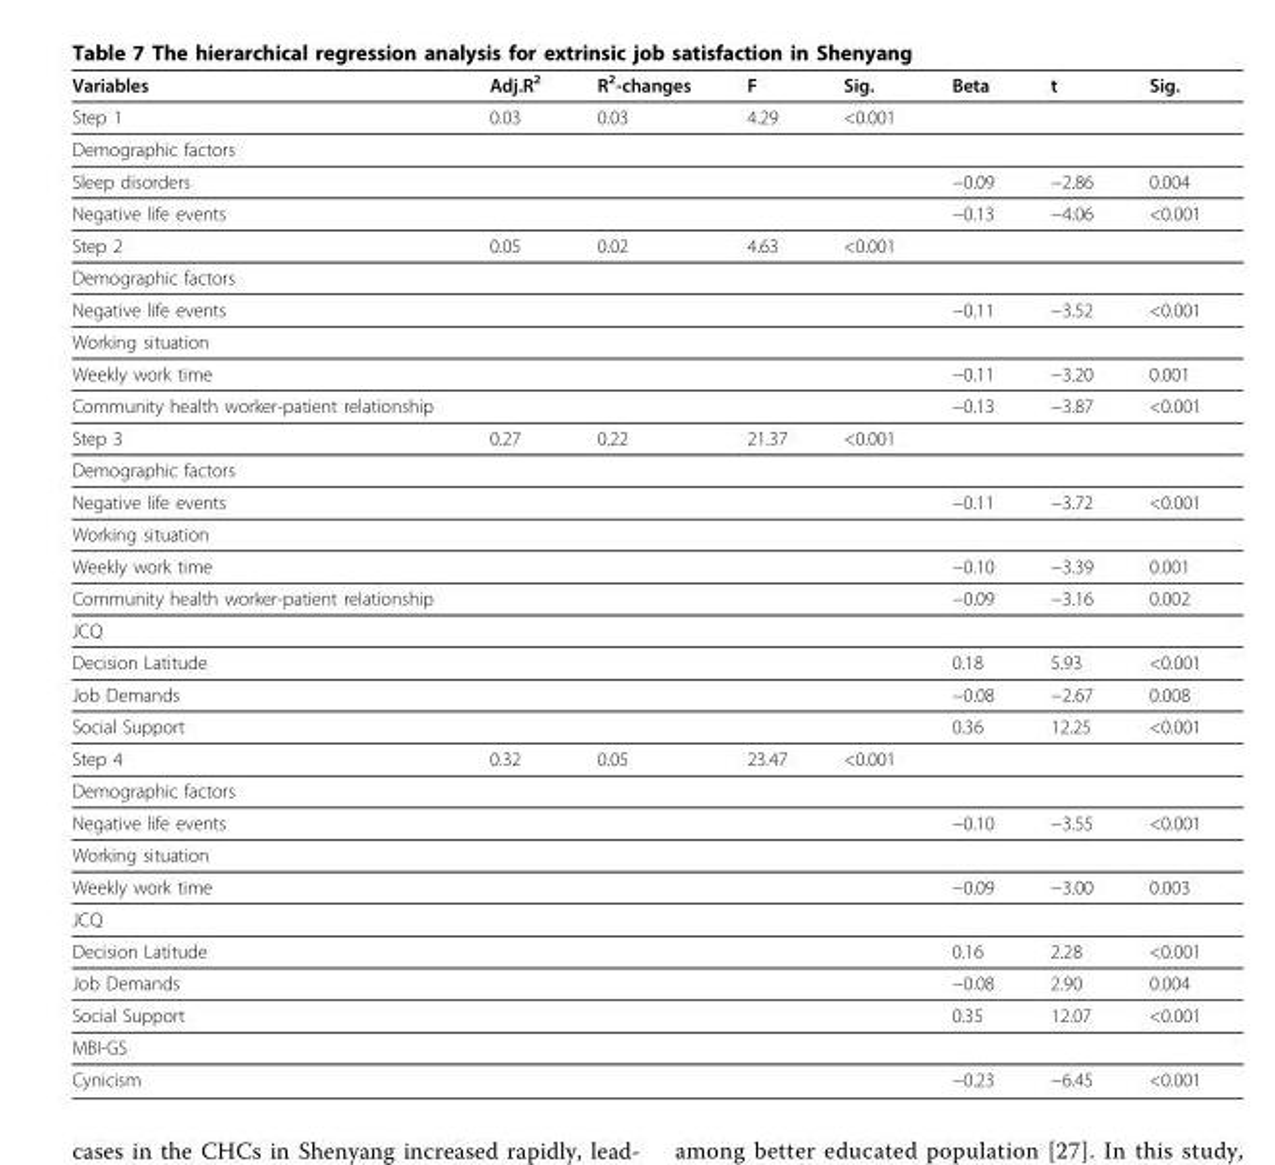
<table><thead><tr><td>Variables</td><td>Adj.R<sup>2</sup></td><td>R<sup>2</sup>-changes</td><td>F</td><td>Sig.</td><td>Beta</td><td>t</td><td>Sig.</td></tr></thead><tbody><tr><td>Step 1</td><td>0.03</td><td>0.03</td><td>4.29</td><td>&lt;0.001</td><td></td><td></td><td></td></tr><tr><td colspan="8">Demographic factors</td></tr><tr><td>Sleep disorders</td><td></td><td></td><td></td><td></td><td>−0.09</td><td>−2.86</td><td>0.004</td></tr><tr><td>Negative life events</td><td></td><td></td><td></td><td></td><td>−0.13</td><td>−4.06</td><td>&lt;0.001</td></tr><tr><td>Step 2</td><td>0.05</td><td>0.02</td><td>4.63</td><td>&lt;0.001</td><td></td><td></td><td></td></tr><tr><td colspan="8">Demographic factors</td></tr><tr><td>Negative life events</td><td></td><td></td><td></td><td></td><td>−0.11</td><td>−3.52</td><td>&lt;0.001</td></tr><tr><td colspan="8">Working situation</td></tr><tr><td>Weekly work time</td><td></td><td></td><td></td><td></td><td>−0.11</td><td>−3.20</td><td>0.001</td></tr><tr><td>Community health worker-patient relationship</td><td></td><td></td><td></td><td></td><td>−0.13</td><td>−3.87</td><td>&lt;0.001</td></tr><tr><td>Step 3</td><td>0.27</td><td>0.22</td><td>21.37</td><td>&lt;0.001</td><td></td><td></td><td></td></tr><tr><td colspan="8">Demographic factors</td></tr><tr><td>Negative life events</td><td></td><td></td><td></td><td></td><td>−0.11</td><td>−3.72</td><td>&lt;0.001</td></tr><tr><td colspan="8">Working situation</td></tr><tr><td>Weekly work time</td><td></td><td></td><td></td><td></td><td>−0.10</td><td>−3.39</td><td>0.001</td></tr><tr><td>Community health worker-patient relationship</td><td></td><td></td><td></td><td></td><td>−0.09</td><td>−3.16</td><td>0.002</td></tr><tr><td colspan="8">JCQ</td></tr><tr><td>Decision Latitude</td><td></td><td></td><td></td><td></td><td>0.18</td><td>5.93</td><td>&lt;0.001</td></tr><tr><td>Job Demands</td><td></td><td></td><td></td><td></td><td>−0.08</td><td>−2.67</td><td>0.008</td></tr><tr><td>Social Support</td><td></td><td></td><td></td><td></td><td>0.36</td><td>12.25</td><td>&lt;0.001</td></tr><tr><td>Step 4</td><td>0.32</td><td>0.05</td><td>23.47</td><td>&lt;0.001</td><td></td><td></td><td></td></tr><tr><td colspan="8">Demographic factors</td></tr><tr><td>Negative life events</td><td></td><td></td><td></td><td></td><td>−0.10</td><td>−3.55</td><td>&lt;0.001</td></tr><tr><td colspan="8">Working situation</td></tr><tr><td>Weekly work time</td><td></td><td></td><td></td><td></td><td>−0.09</td><td>−3.00</td><td>0.003</td></tr><tr><td colspan="8">JCQ</td></tr><tr><td>Decision Latitude</td><td></td><td></td><td></td><td></td><td>0.16</td><td>2.28</td><td>&lt;0.001</td></tr><tr><td>Job Demands</td><td></td><td></td><td></td><td></td><td>−0.08</td><td>2.90</td><td>0.004</td></tr><tr><td>Social Support</td><td></td><td></td><td></td><td></td><td>0.35</td><td>12.07</td><td>&lt;0.001</td></tr><tr><td colspan="8">MBI-GS</td></tr><tr><td>Cynicism</td><td></td><td></td><td></td><td></td><td>−0.23</td><td>−6.45</td><td>&lt;0.001</td></tr></tbody></table>